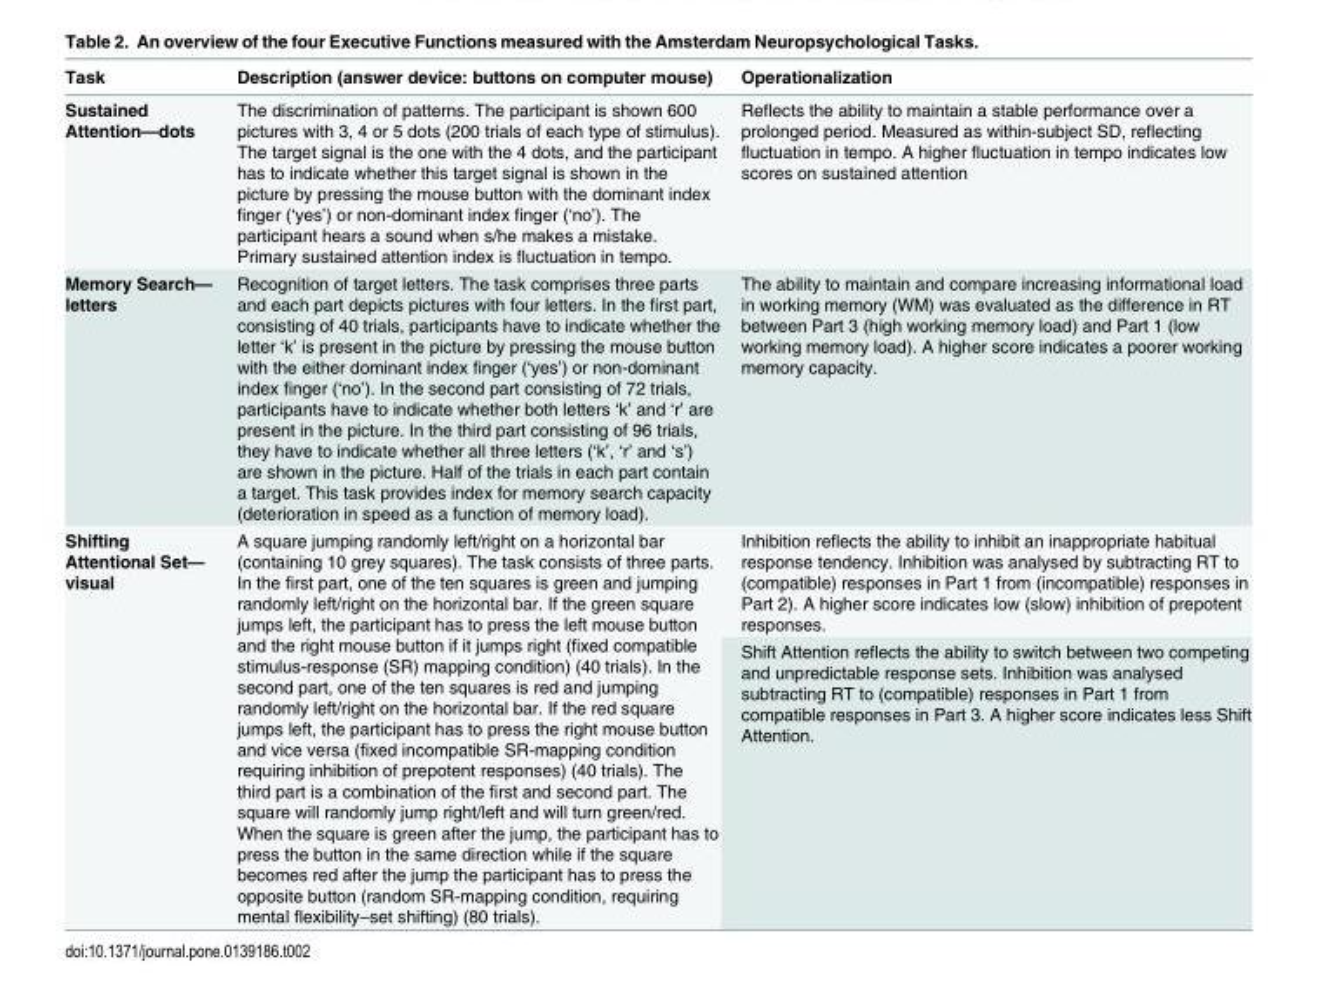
<table><thead><tr><td>Task</td><td>Description (answer device: buttons on computer mouse)</td><td>Operationalization</td></tr></thead><tbody><tr><td>Sustained Attention—dots</td><td>The discrimination of patterns. The participant is shown 600 pictures with 3, 4 or 5 dots (200 trials of each type of stimulus). The target signal is the one with the 4 dots, and the participant has to indicate whether this target signal is shown in the picture by pressing the mouse button with the dominant index finger (‘yes’) or non-dominant index finger (‘no’). The participant hears a sound when s/he makes a mistake. Primary sustained attention index is fluctuation in tempo.</td><td>Reflects the ability to maintain a stable performance over a prolonged period. Measured as within-subject SD, reflecting fluctuation in tempo. A higher fluctuation in tempo indicates low scores on sustained attention</td></tr><tr><td>Memory Search— letters</td><td>Recognition of target letters. The task comprises three parts and each part depicts pictures with four letters. In the first part, consisting of 40 trials, participants have to indicate whether the letter ‘k’ is present in the picture by pressing the mouse button with the either dominant index finger (‘yes’) or non-dominant index finger (‘no’). In the second part consisting of 72 trials, participants have to indicate whether both letters ‘k’ and ‘r’ are present in the picture. In the third part consisting of 96 trials, they have to indicate whether all three letters (‘k’, ‘r’ and ‘s’) are shown in the picture. Half of the trials in each part contain a target. This task provides index for memory search capacity (deterioration in speed as a function of memory load).</td><td>The ability to maintain and compare increasing informational load in working memory (WM) was evaluated as the difference in RT between Part 3 (high working memory load) and Part 1 (low working memory load). A higher score indicates a poorer working memory capacity.</td></tr><tr><td rowspan="2">Shifting Attentional Set— visual</td><td rowspan="2">A square jumping randomly left/right on a horizontal bar (containing 10 grey squares). The task consists of three parts. In the first part, one of the ten squares is green and jumping randomly left/right on the horizontal bar. If the green square jumps left, the participant has to press the left mouse button and the right mouse button if it jumps right (fixed compatible stimulus-response (SR) mapping condition) (40 trials). In the second part, one of the ten squares is red and jumping randomly left/right on the horizontal bar. If the red square jumps left, the participant has to press the right mouse button and vice versa (fixed incompatible SR-mapping condition requiring inhibition of prepotent responses) (40 trials). The third part is a combination of the first and second part. The square will randomly jump right/left and will turn green/red. When the square is green after the jump, the participant has to press the button in the same direction while if the square becomes red after the jump the participant has to press the opposite button (random SR-mapping condition, requiring mental flexibility–set shifting) (80 trials).</td><td>Inhibition reflects the ability to inhibit an inappropriate habitual response tendency. Inhibition was analysed by subtracting RT to (compatible) responses in Part 1 from (incompatible) responses in Part 2). A higher score indicates low (slow) inhibition of prepotent responses.</td></tr><tr><td>Shift Attention reflects the ability to switch between two competing and unpredictable response sets. Inhibition was analysed subtracting RT to (compatible) responses in Part 1 from compatible responses in Part 3. A higher score indicates less Shift Attention.</td></tr></tbody></table>